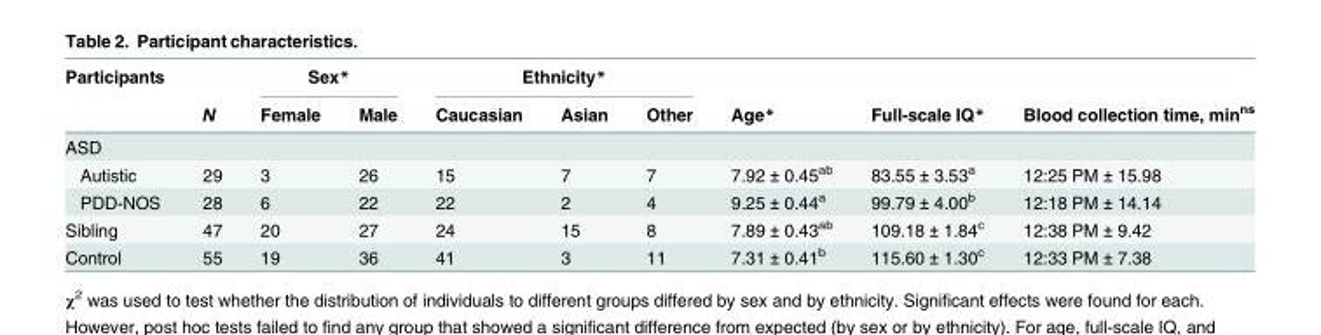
<table><thead><tr><td rowspan="2">Participants</td><td colspan="3">Sex*</td><td colspan="3">Ethnicity*</td><td rowspan="2">Age*</td><td rowspan="2">Full-scale IQ*</td><td rowspan="2">Blood collection time, min<sup>ns</sup></td></tr><tr><td>N</td><td>Female</td><td>Male</td><td>Caucasian</td><td>Asian</td><td>Other</td></tr></thead><tbody><tr><td colspan="10">ASD</td></tr><tr><td>Autistic</td><td>29</td><td>3</td><td>26</td><td>15</td><td>7</td><td>7</td><td>7.92 ± 0.45<sup>ab</sup></td><td>83.55 ± 3.53<sup>a</sup></td><td>12:25 PM ± 15.98</td></tr><tr><td>PDD-NOS</td><td>28</td><td>6</td><td>22</td><td>22</td><td>2</td><td>4</td><td>9.25 ± 0.44<sup>a</sup></td><td>99.79 ± 4.00<sup>b</sup></td><td>12:18 PM ± 14.14</td></tr><tr><td>Sibling</td><td>47</td><td>20</td><td>27</td><td>24</td><td>15</td><td>8</td><td>7.89 ± 0.43<sup>ab</sup></td><td>109.18 ± 1.84<sup>c</sup></td><td>12:38 PM ± 9.42</td></tr><tr><td>Control</td><td>55</td><td>19</td><td>36</td><td>41</td><td>3</td><td>11</td><td>7.31 ± 0.41<sup>b</sup></td><td>115.60 ± 1.30<sup>c</sup></td><td>12:33 PM ± 7.38</td></tr></tbody></table>